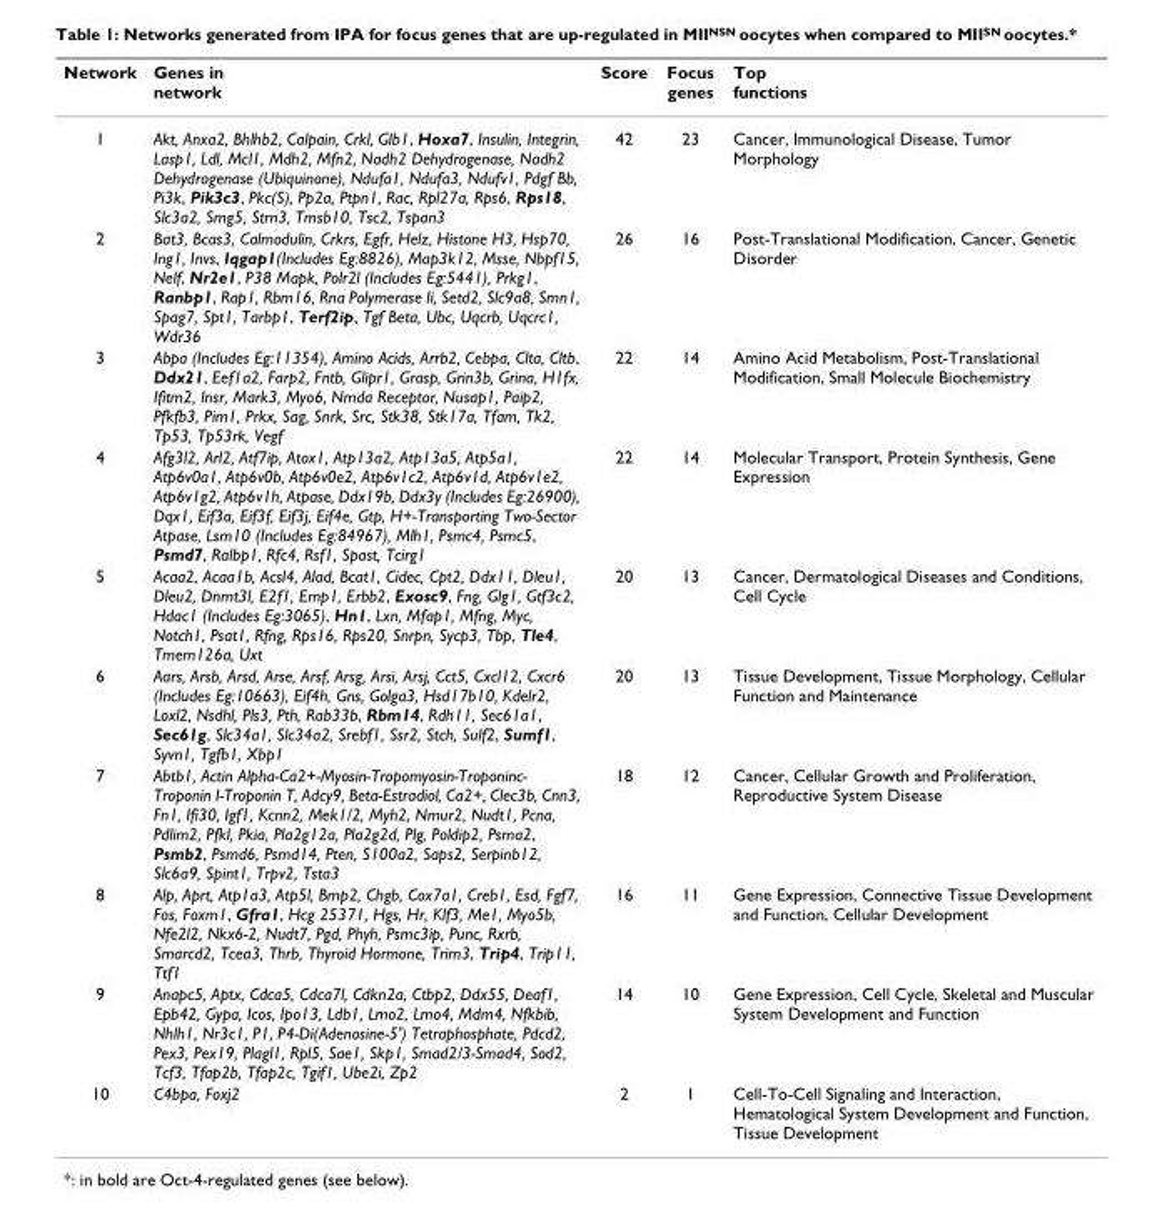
<table><thead><tr><td>Network</td><td>Genes in network</td><td>Score</td><td>Focus genes</td><td>Top functions</td></tr></thead><tbody><tr><td>1</td><td>Akt, Anxa2, Bhlhb2, Calpain, Crkl, Glb1, Hoxa7, Insulin, Integrin, Lasp1, Ldl, Mcl1, Mdh2, Mfn2, Nadh2 Dehydrogenase, Nadh2 Dehydrogenase (Ubiquinone), Ndufa1, Ndufa3, Ndufv1, Pdgf Bb, Pi3k, Pik3c3, Pkc(S), Pp2a, Ptpn1, Rac, Rpl27a, Rps6, Rps18, Slc3a2, Smg5, Strn3, Tmsb10, Tsc2, Tspan3</td><td>42</td><td>23</td><td>Cancer, Immunological Disease, Tumor Morphology</td></tr><tr><td>2</td><td>Bat3, Bcas3, Calmodulin, Crkrs, Egfr, Helz, Histone H3, Hsp70, Ing1, Invs, Iqgap1(Includes Eg:8826), Map3k12, Msse, Nbpf15, Nelf, Nr2e1, P38 Mapk, Polr2l (Includes Eg:5441), Prkg1, Ranbp1, Rap1, Rbm16, Rna Polymerase Ii, Setd2, Slc9a8, Smn1, Spag7, Spt1, Tarbp1, Terf2ip, Tgf Beta, Ubc, Uqcrb, Uqcrc1, Wdr36</td><td>26</td><td>16</td><td>Post-Translational Modification, Cancer, Genetic Disorder</td></tr><tr><td>3</td><td>Abpa (Includes Eg:11354), Amino Acids, Arrb2, Cebpa, Clta, Cltb, Ddx21, Eef1a2, Farp2, Fntb, Glipr1, Grasp, Grin3b, Grina, H1fx, Ifitm2, Insr, Mark3, Myo6, Nmda Receptor, Nusap1, Paip2, Pfkfb3, Pim1, Prkx, Sag, Snrk, Src, Stk38, Stk17a, Tfam, Tk2, Tp53, Tp53rk, Vegf</td><td>22</td><td>14</td><td>Amino Acid Metabolism, Post-Translational Modification, Small Molecule Biochemistry</td></tr><tr><td>4</td><td>Afg3l2, Arl2, Atf7ip, Atox1, Atp13a2, Atp13a5, Atp5a1, Atp6v0a1, Atp6v0b, Atp6v0e2, Atp6v1c2, Atp6v1d, Atp6v1e2, Atp6v1g2, Atp6v1h, Atpase, Ddx19b, Ddx3y (Includes Eg:26900), Dqx1, Eif3a, Eif3f, Eif3j, Eif4e, Gtp, H+-Transporting Two-Sector Atpase, Lsm10 (Includes Eg:84967), Mlh1, Psmc4, Psmc5, Psmd7, Ralbp1, Rfc4, Rsf1, Spast, Tcirg1</td><td>22</td><td>14</td><td>Molecular Transport, Protein Synthesis, Gene Expression</td></tr><tr><td>5</td><td>Acaa2, Acaa1b, Acsl4, Alad, Bcat1, Cidec, Cpt2, Ddx11, Dleu1, Dleu2, Dnmt3l, E2f1, Emp1, Erbb2, Exosc9, Fng, Glg1, Gtf3c2, Hdac1 (Includes Eg:3065), Hn1, Lxn, Mfap1, Mfng, Myc, Notch1, Psat1, Rfng, Rps16, Rps20, Snrpn, Sycp3, Tbp, Tle4, Tmem126a, Uxt</td><td>20</td><td>13</td><td>Cancer, Dermatological Diseases and Conditions, Cell Cycle</td></tr><tr><td>6</td><td>Aars, Arsb, Arsd, Arse, Arsf, Arsg, Arsi, Arsj, Cct5, Cxcl12, Cxcr6 (Includes Eg:10663), Eif4h, Gns, Golga3, Hsd17b10, Kdelr2, Loxl2, Nsdhl, Pls3, Pth, Rab33b, Rbm14, Rdh11, Sec61a1, Sec61g, Slc34a1, Slc34a2, Srebf1, Ssr2, Stch, Sulf2, Sumf1, Syvn1, Tgfb1, Xbp1</td><td>20</td><td>13</td><td>Tissue Development, Tissue Morphology, Cellular Function and Maintenance</td></tr><tr><td>7</td><td>Abtb1, Actin Alpha-Ca2+-Myosin-Tropomyosin-Troponinc- Troponin I-Troponin T, Adcy9, Beta-Estradiol, Ca2+, Clec3b, Cnn3, Fn1, Ifi30, Igf1, Kcnn2, Mek1/2, Myh2, Nmur2, Nudt1, Pcna, Pdlim2, Pfkl, Pkia, Pla2g12a, Pla2g2d, Plg, Poldip2, Psma2, Psmb2, Psmd6, Psmd14, Pten, S100a2, Saps2, Serpinb12, Slc6a9, Spint1, Trpv2, Tsta3</td><td>18</td><td>12</td><td>Cancer, Cellular Growth and Proliferation, Reproductive System Disease</td></tr><tr><td>8</td><td>Alp, Aprt, Atp1a3, Atp5l, Bmp2, Chgb, Cox7a1, Creb1, Esd, Fgf7, Fos, Foxm1, Gfra1, Hcg 25371, Hgs, Hr, Klf3, Me1, Myo5b, Nfe2l2, Nkx6-2, Nudt7, Pgd, Phyh, Psmc3ip, Punc, Rxrb, Smarcd2, Tcea3, Thrb, Thyroid Hormone, Trim3, Trip4, Trip11, Ttf1</td><td>16</td><td>11</td><td>Gene Expression, Connective Tissue Development and Function, Cellular Development</td></tr><tr><td>9</td><td>Anapc5, Aptx, Cdca5, Cdca7l, Cdkn2a, Ctbp2, Ddx55, Deaf1, Epb42, Gypa, Icos, Ipo13, Ldb1, Lmo2, Lmo4, Mdm4, Nfkbib, Nhlh1, Nr3c1, P1, P4-Di(Adenosine-5&#x27;) Tetraphosphate, Pdcd2, Pex3, Pex19, Plagl1, Rpl5, Sae1, Skp1, Smad2/3-Smad4, Sod2, Tcf3, Tfap2b, Tfap2c, Tgif1, Ube2i, Zp2</td><td>14</td><td>10</td><td>Gene Expression, Cell Cycle, Skeletal and Muscular System Development and Function</td></tr><tr><td>10</td><td>C4bpa, Foxj2</td><td>2</td><td>1</td><td>Cell-To-Cell Signaling and Interaction, Hematological System Development and Function, Tissue Development</td></tr></tbody></table>